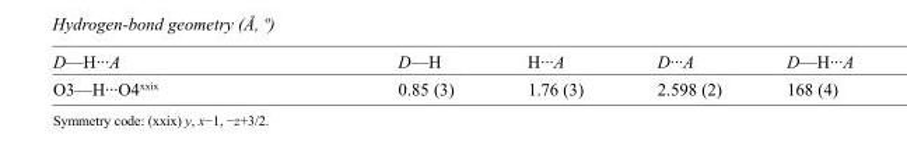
<table><tbody><tr><td>D—H···A</td><td>D—H</td><td>H···A</td><td>D···A</td><td>D—H···A</td></tr><tr><td>O3—H···O4<sup>xxix</sup></td><td>0.85 (3)</td><td>1.76 (3)</td><td>2.598 (2)</td><td>168 (4)</td></tr></tbody></table>